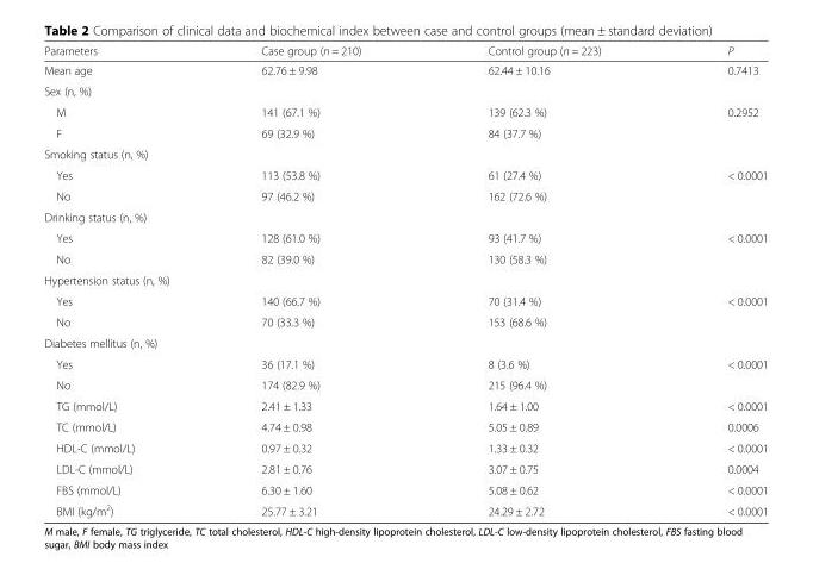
<table><thead><tr><td>Parameters</td><td>Case group (n = 210)</td><td>Control group (n = 223)</td><td>P</td></tr></thead><tbody><tr><td>Mean age</td><td>62.76 ± 9.98</td><td>62.44 ± 10.16</td><td>0.7413</td></tr><tr><td colspan="4">Sex (n, %)</td></tr><tr><td>M</td><td>141 (67.1 %)</td><td>139 (62.3 %)</td><td rowspan="2">0.2952</td></tr><tr><td>F</td><td>69 (32.9 %)</td><td>84 (37.7 %)</td></tr><tr><td colspan="4">Smoking status (n, %)</td></tr><tr><td>Yes</td><td>113 (53.8 %)</td><td>61 (27.4 %)</td><td rowspan="2">&lt; 0.0001</td></tr><tr><td>No</td><td>97 (46.2 %)</td><td>162 (72.6 %)</td></tr><tr><td colspan="4">Drinking status (n, %)</td></tr><tr><td>Yes</td><td>128 (61.0 %)</td><td>93 (41.7 %)</td><td rowspan="2">&lt; 0.0001</td></tr><tr><td>No</td><td>82 (39.0 %)</td><td>130 (58.3 %)</td></tr><tr><td colspan="4">Hypertension status (n, %)</td></tr><tr><td>Yes</td><td>140 (66.7 %)</td><td>70 (31.4 %)</td><td rowspan="2">&lt; 0.0001</td></tr><tr><td>No</td><td>70 (33.3 %)</td><td>153 (68.6 %)</td></tr><tr><td colspan="4">Diabetes mellitus (n, %)</td></tr><tr><td>Yes</td><td>36 (17.1 %)</td><td>8 (3.6 %)</td><td rowspan="2">&lt; 0.0001</td></tr><tr><td>No</td><td>174 (82.9 %)</td><td>215 (96.4 %)</td></tr><tr><td>TG (mmol/L)</td><td>2.41 ± 1.33</td><td>1.64 ± 1.00</td><td>&lt; 0.0001</td></tr><tr><td>TC (mmol/L)</td><td>4.74 ± 0.98</td><td>5.05 ± 0.89</td><td>0.0006</td></tr><tr><td>HDL-C (mmol/L)</td><td>0.97 ± 0.32</td><td>1.33 ± 0.32</td><td>&lt; 0.0001</td></tr><tr><td>LDL-C (mmol/L)</td><td>2.81 ± 0.76</td><td>3.07 ± 0.75</td><td>0.0004</td></tr><tr><td>FBS (mmol/L)</td><td>6.30 ± 1.60</td><td>5.08 ± 0.62</td><td>&lt; 0.0001</td></tr><tr><td>BMI (kg/m<sup>2</sup>)</td><td>25.77 ± 3.21</td><td>24.29 ± 2.72</td><td>&lt; 0.0001</td></tr></tbody></table>